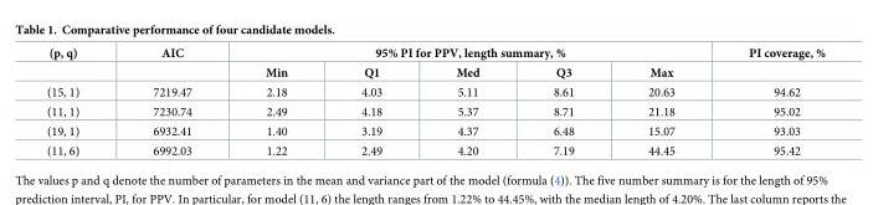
<table><thead><tr><td rowspan="2">(p, q)</td><td rowspan="2">AIC</td><td colspan="5">95% PI for PPV, length summary, %</td><td rowspan="2">PI coverage, %</td></tr><tr><td>Min</td><td>Q1</td><td>Med</td><td>Q3</td><td>Max</td></tr></thead><tbody><tr><td>(15, 1)</td><td>7219.47</td><td>2.18</td><td>4.03</td><td>5.11</td><td>8.61</td><td>20.63</td><td>94.62</td></tr><tr><td>(11, 1)</td><td>7230.74</td><td>2.49</td><td>4.18</td><td>5.37</td><td>8.71</td><td>21.18</td><td>95.02</td></tr><tr><td>(19, 1)</td><td>6932.41</td><td>1.40</td><td>3.19</td><td>4.37</td><td>6.48</td><td>15.07</td><td>93.03</td></tr><tr><td>(11, 6)</td><td>6992.03</td><td>1.22</td><td>2.49</td><td>4.20</td><td>7.19</td><td>44.45</td><td>95.42</td></tr></tbody></table>